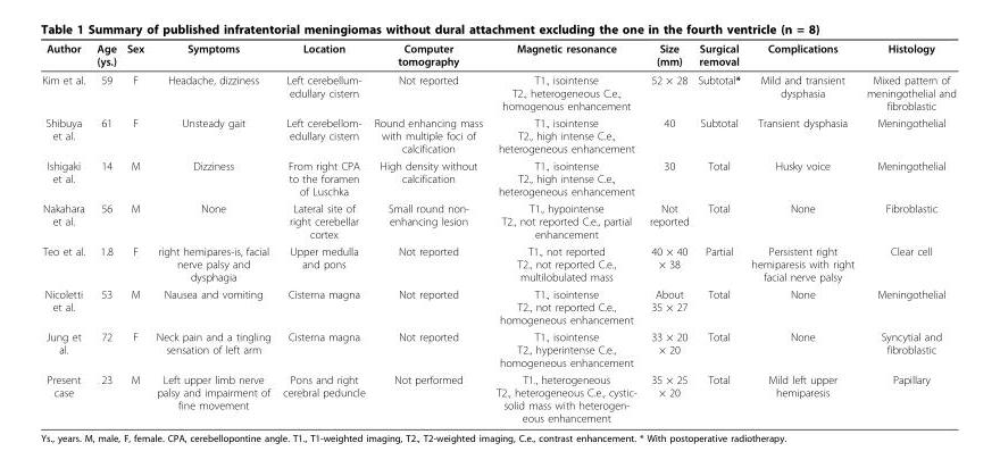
<table><thead><tr><td>Author</td><td>Age (ys.)</td><td>Sex</td><td>Symptoms</td><td>Location</td><td>Computer tomography</td><td>Magnetic resonance</td><td>Size (mm)</td><td>Surgical removal</td><td>Complications</td><td>Histology</td></tr></thead><tbody><tr><td>Kim et al.</td><td>59</td><td>F</td><td>Headache, dizziness</td><td>Left cerebellum- edullary cistern</td><td>Not reported</td><td>T1., isointense T2., heterogeneous C.e., homogenous enhancement</td><td>52 × 28</td><td>Subtotal*</td><td>Mild and transient dysphasia</td><td>Mixed pattern of meningothelial and fibroblastic</td></tr><tr><td>Shibuya et al.</td><td>61</td><td>F</td><td>Unsteady gait</td><td>Left cerebellom- edullary cistern</td><td>Round enhancing mass with multiple foci of calcification</td><td>T1., isointense T2., high intense C.e., heterogeneous enhancement</td><td>40</td><td>Subtotal</td><td>Transient dysphasia</td><td>Meningothelial</td></tr><tr><td>Ishigaki et al.</td><td>14</td><td>M</td><td>Dizziness</td><td>From right CPA to the foramen of Luschka</td><td>High density without calcification</td><td>T1., isointense T2., high intense C.e., heterogeneous enhancement</td><td>30</td><td>Total</td><td>Husky voice</td><td>Meningothelial</td></tr><tr><td>Nakahara et al.</td><td>56</td><td>M</td><td>None</td><td>Lateral site of right cerebellar cortex</td><td>Small round non- enhancing lesion</td><td>T1., hypointense T2., not reported C.e., partial enhancement</td><td>Not reported</td><td>Total</td><td>None</td><td>Fibroblastic</td></tr><tr><td>Teo et al.</td><td>1.8</td><td>F</td><td>right hemipares-is, facial nerve palsy and dysphagia</td><td>Upper medulla and pons</td><td>Not reported</td><td>T1., not reported T2., not reported C.e., multilobulated mass</td><td>40 × 40 × 38</td><td>Partial</td><td>Persistent right hemiparesis with right facial nerve palsy</td><td>Clear cell</td></tr><tr><td>Nicoletti et al.</td><td>53</td><td>M</td><td>Nausea and vomiting</td><td>Cisterna magna</td><td>Not reported</td><td>T1., isointense T2., not reported C.e., homogeneous enhancement</td><td>About 35 × 27</td><td>Total</td><td>None</td><td>Meningothelial</td></tr><tr><td>Jung et al.</td><td>72</td><td>F</td><td>Neck pain and a tingling sensation of left arm</td><td>Cisterna magna</td><td>Not reported</td><td>T1., isointense T2., hyperintense C.e., homogeneous enhancement</td><td>33 × 20 × 20</td><td>Total</td><td>None</td><td>Syncytial and fibroblastic</td></tr><tr><td>Present case</td><td>23</td><td>M</td><td>Left upper limb nerve palsy and impairment of fine movement</td><td>Pons and right cerebral peduncle</td><td>Not performed</td><td>T1., heterogeneous T2., heterogeneous C.e., cystic- solid mass with heterogen- eous enhancement</td><td>35 × 25 × 20</td><td>Total</td><td>Mild left upper hemiparesis</td><td>Papillary</td></tr></tbody></table>